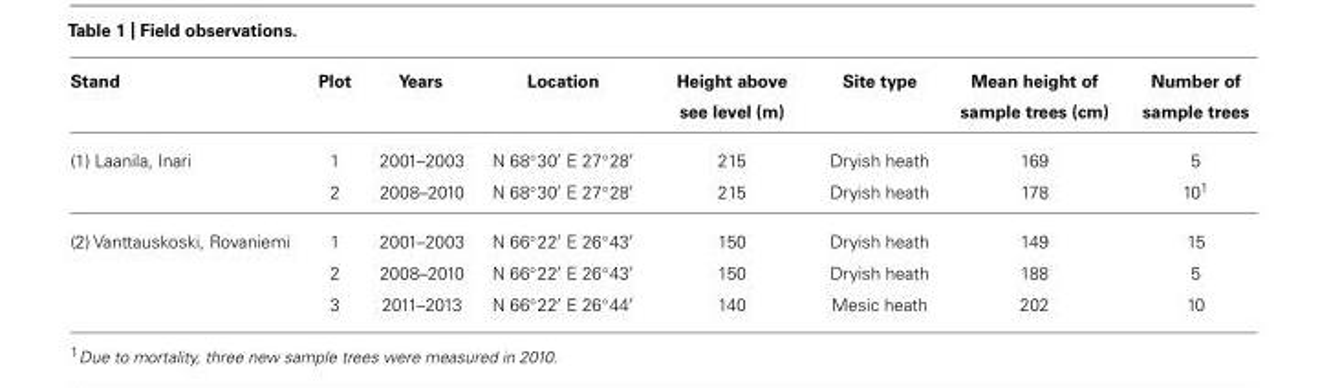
<table><thead><tr><td>Stand</td><td>Plot</td><td>Years</td><td>Location</td><td>Height above see level (m)</td><td>Site type</td><td>Mean height of sample trees (cm)</td><td>Number of sample trees</td></tr></thead><tbody><tr><td rowspan="2">(1) Laanila, Inari</td><td>1</td><td>2001–2003</td><td>N 68◦30′ E 27◦28′</td><td>215</td><td>Dryish heath</td><td>169</td><td>5</td></tr><tr><td>2</td><td>2008–2010</td><td>N 68◦30′ E 27◦28′</td><td>215</td><td>Dryish heath</td><td>178</td><td>10<sup>1</sup></td></tr><tr><td rowspan="3">(2) Vanttauskoski, Rovaniemi</td><td>1</td><td>2001–2003</td><td>N 66◦22′ E 26◦43′</td><td>150</td><td>Dryish heath</td><td>149</td><td>15</td></tr><tr><td>2</td><td>2008–2010</td><td>N 66◦22′ E 26◦43′</td><td>150</td><td>Dryish heath</td><td>188</td><td>5</td></tr><tr><td>3</td><td>2011–2013</td><td>N 66◦22′ E 26◦44′</td><td>140</td><td>Mesic heath</td><td>202</td><td>10</td></tr></tbody></table>